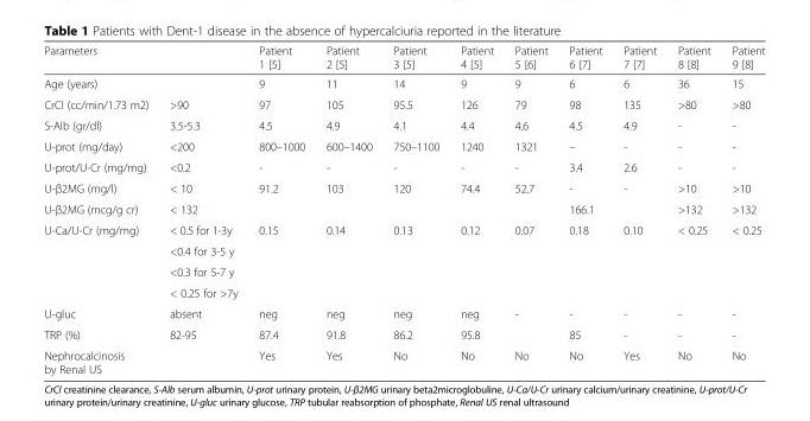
<table><thead><tr><td>Parameters</td><td></td><td>Patient 1 [5]</td><td>Patient 2 [5]</td><td>Patient 3 [5]</td><td>Patient 4 [5]</td><td>Patient 5 [6]</td><td>Patient 6 [7]</td><td>Patient 7 [7]</td><td>Patient 8 [8]</td><td>Patient 9 [8]</td></tr></thead><tbody><tr><td>Age (years)</td><td></td><td>9</td><td>11</td><td>14</td><td>9</td><td>9</td><td>6</td><td>6</td><td>36</td><td>15</td></tr><tr><td>CrCl (cc/min/1.73 m2)</td><td>&gt;90</td><td>97</td><td>105</td><td>95.5</td><td>126</td><td>79</td><td>98</td><td>135</td><td>&gt;80</td><td>&gt;80</td></tr><tr><td>S-Alb (gr/dl)</td><td>3.5-5.3</td><td>4.5</td><td>4.9</td><td>4.1</td><td>4.4</td><td>4.6</td><td>4.5</td><td>4.9</td><td>-</td><td>-</td></tr><tr><td>U-prot (mg/day)</td><td>&lt;200</td><td>800–1000</td><td>600–1400</td><td>750–1100</td><td>1240</td><td>1321</td><td>–</td><td>-</td><td>-</td><td>-</td></tr><tr><td>U-prot/U-Cr (mg/mg)</td><td>&lt;0.2</td><td>-</td><td>-</td><td>-</td><td>-</td><td>-</td><td>3.4</td><td>2.6</td><td>-</td><td>-</td></tr><tr><td>U-β2MG (mg/l)</td><td>&lt; 10</td><td>91.2</td><td>103</td><td>120</td><td>74.4</td><td>52.7</td><td>-</td><td>-</td><td>&gt;10</td><td>&gt;10</td></tr><tr><td>U-β2MG (mcg/g cr)</td><td>&lt; 132</td><td></td><td></td><td></td><td></td><td></td><td>166.1</td><td></td><td>&gt;132</td><td>&gt;132</td></tr><tr><td rowspan="4">U-Ca/U-Cr (mg/mg)</td><td>&lt; 0.5 for 1-3y</td><td rowspan="4">0.15</td><td rowspan="4">0.14</td><td rowspan="4">0.13</td><td rowspan="4">0.12</td><td rowspan="4">0.07</td><td rowspan="4">0.18</td><td rowspan="4">0.10</td><td rowspan="4">&lt; 0.25</td><td rowspan="4">&lt; 0.25</td></tr><tr><td>&lt;0.4 for 3-5 y</td></tr><tr><td>&lt;0.3 for 5-7 y</td></tr><tr><td>&lt; 0.25 for &gt;7y</td></tr><tr><td>U-gluc</td><td>absent</td><td>neg</td><td>neg</td><td>neg</td><td>neg</td><td>-</td><td>-</td><td>-</td><td>-</td><td>-</td></tr><tr><td>TRP (%)</td><td>82-95</td><td>87.4</td><td>91.8</td><td>86.2</td><td>95.8</td><td></td><td>85</td><td>-</td><td>-</td><td>-</td></tr><tr><td>Nephrocalcinosis by Renal US</td><td></td><td>Yes</td><td>Yes</td><td>No</td><td>No</td><td>No</td><td>No</td><td>Yes</td><td>No</td><td>No</td></tr></tbody></table>